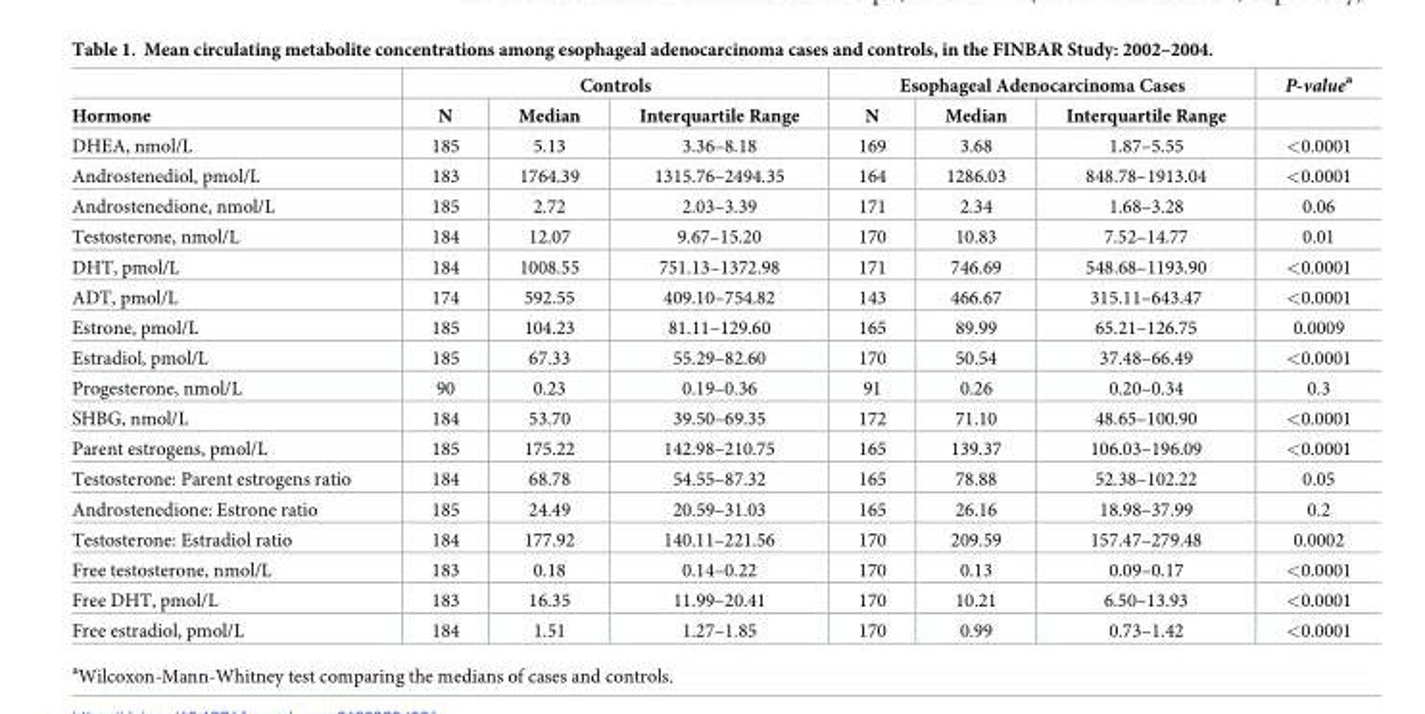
<table><thead><tr><td rowspan="2">Hormone</td><td colspan="3">Controls</td><td colspan="3">Esophageal Adenocarcinoma Cases</td><td rowspan="2">P-value<sup>a</sup></td></tr><tr><td>N</td><td>Median</td><td>Interquartile Range</td><td>N</td><td>Median</td><td>Interquartile Range</td></tr></thead><tbody><tr><td>DHEA, nmol/L</td><td>185</td><td>5.13</td><td>3.36–8.18</td><td>169</td><td>3.68</td><td>1.87–5.55</td><td>&lt;0.0001</td></tr><tr><td>Androstenediol, pmol/L</td><td>183</td><td>1764.39</td><td>1315.76–2494.35</td><td>164</td><td>1286.03</td><td>848.78–1913.04</td><td>&lt;0.0001</td></tr><tr><td>Androstenedione, nmol/L</td><td>185</td><td>2.72</td><td>2.03–3.39</td><td>171</td><td>2.34</td><td>1.68–3.28</td><td>0.06</td></tr><tr><td>Testosterone, nmol/L</td><td>184</td><td>12.07</td><td>9.67–15.20</td><td>170</td><td>10.83</td><td>7.52–14.77</td><td>0.01</td></tr><tr><td>DHT, pmol/L</td><td>184</td><td>1008.55</td><td>751.13–1372.98</td><td>171</td><td>746.69</td><td>548.68–1193.90</td><td>&lt;0.0001</td></tr><tr><td>ADT, pmol/L</td><td>174</td><td>592.55</td><td>409.10–754.82</td><td>143</td><td>466.67</td><td>315.11–643.47</td><td>&lt;0.0001</td></tr><tr><td>Estrone, pmol/L</td><td>185</td><td>104.23</td><td>81.11–129.60</td><td>165</td><td>89.99</td><td>65.21–126.75</td><td>0.0009</td></tr><tr><td>Estradiol, pmol/L</td><td>185</td><td>67.33</td><td>55.29–82.60</td><td>170</td><td>50.54</td><td>37.48–66.49</td><td>&lt;0.0001</td></tr><tr><td>Progesterone, nmol/L</td><td>90</td><td>0.23</td><td>0.19–0.36</td><td>91</td><td>0.26</td><td>0.20–0.34</td><td>0.3</td></tr><tr><td>SHBG, nmol/L</td><td>184</td><td>53.70</td><td>39.50–69.35</td><td>172</td><td>71.10</td><td>48.65–100.90</td><td>&lt;0.0001</td></tr><tr><td>Parent estrogens, pmol/L</td><td>185</td><td>175.22</td><td>142.98–210.75</td><td>165</td><td>139.37</td><td>106.03–196.09</td><td>&lt;0.0001</td></tr><tr><td>Testosterone: Parent estrogens ratio</td><td>184</td><td>68.78</td><td>54.55–87.32</td><td>165</td><td>78.88</td><td>52.38–102.22</td><td>0.05</td></tr><tr><td>Androstenedione: Estrone ratio</td><td>185</td><td>24.49</td><td>20.59–31.03</td><td>165</td><td>26.16</td><td>18.98–37.99</td><td>0.2</td></tr><tr><td>Testosterone: Estradiol ratio</td><td>184</td><td>177.92</td><td>140.11–221.56</td><td>170</td><td>209.59</td><td>157.47–279.48</td><td>0.0002</td></tr><tr><td>Free testosterone, nmol/L</td><td>183</td><td>0.18</td><td>0.14–0.22</td><td>170</td><td>0.13</td><td>0.09–0.17</td><td>&lt;0.0001</td></tr><tr><td>Free DHT, pmol/L</td><td>183</td><td>16.35</td><td>11.99–20.41</td><td>170</td><td>10.21</td><td>6.50–13.93</td><td>&lt;0.0001</td></tr><tr><td>Free estradiol, pmol/L</td><td>184</td><td>1.51</td><td>1.27–1.85</td><td>170</td><td>0.99</td><td>0.73–1.42</td><td>&lt;0.0001</td></tr></tbody></table>